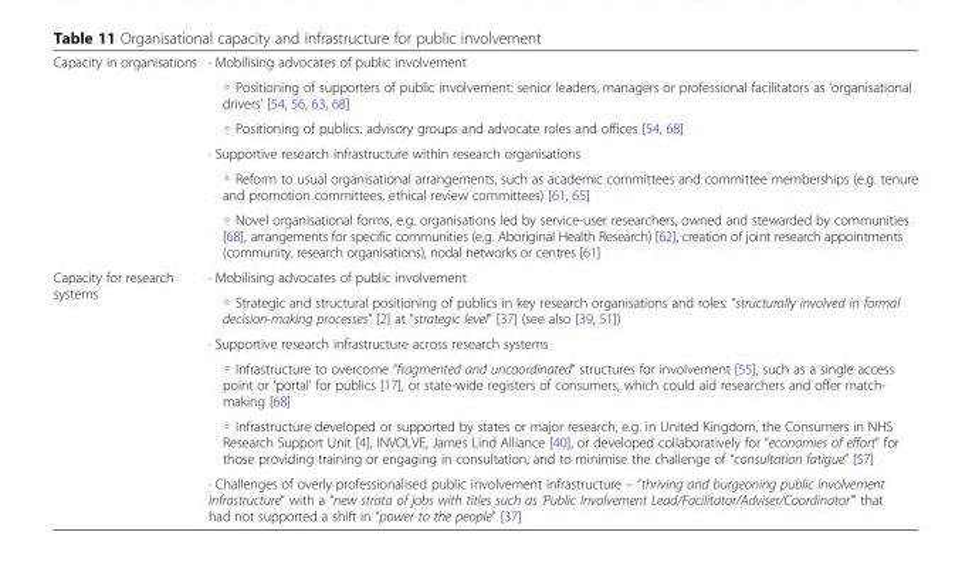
<table><tbody><tr><td rowspan="6">Capacity in organisations</td><td>∙ Mobilising advocates of public involvement</td></tr><tr><td>◦ Positioning of supporters of public involvement: senior leaders, managers or professional facilitators as ‘organisational drivers’ [54, 56, 63, 68]</td></tr><tr><td>◦ Positioning of publics: advisory groups and advocate roles and offices [54, 68]</td></tr><tr><td>∙ Supportive research infrastructure within research organisations</td></tr><tr><td>◦ Reform to usual organisational arrangements, such as academic committees and committee memberships (e.g. tenure and promotion committees, ethical review committees) [61, 65]</td></tr><tr><td>◦ Novel organisational forms, e.g. organisations led by service-user researchers, owned and stewarded by communities [68], arrangements for specific communities (e.g. Aboriginal Health Research) [62], creation of joint research appointments (community, research organisations), nodal networks or centres [61]</td></tr><tr><td rowspan="6">Capacity for research systems</td><td>∙ Mobilising advocates of public involvement</td></tr><tr><td>◦ Strategic and structural positioning of publics in key research organisations and roles: “structurally involved in formal decision-making processes” [2] at “strategic level” [37] (see also [39, 51])</td></tr><tr><td>∙ Supportive research infrastructure across research systems</td></tr><tr><td>◦ Infrastructure to overcome “fragmented and uncoordinated” structures for involvement [55], such as a single access point or ‘portal’ for publics [17], or state-wide registers of consumers, which could aid researchers and offer match- making [68]</td></tr><tr><td>◦ Infrastructure developed or supported by states or major research, e.g. in United Kingdom, the Consumers in NHS Research Support Unit [4], INVOLVE, James Lind Alliance [40], or developed collaboratively for “economies of effort” for those providing training or engaging in consultation, and to minimise the challenge of “consultation fatigue” [57]</td></tr><tr><td>∙ Challenges of overly professionalised public involvement infrastructure – “thriving and burgeoning public involvement infrastructure” with a “new strata of jobs with titles such as ‘Public Involvement Lead/Facilitator/Adviser/Coordinator’” that had not supported a shift in “power to the people” [37]</td></tr></tbody></table>